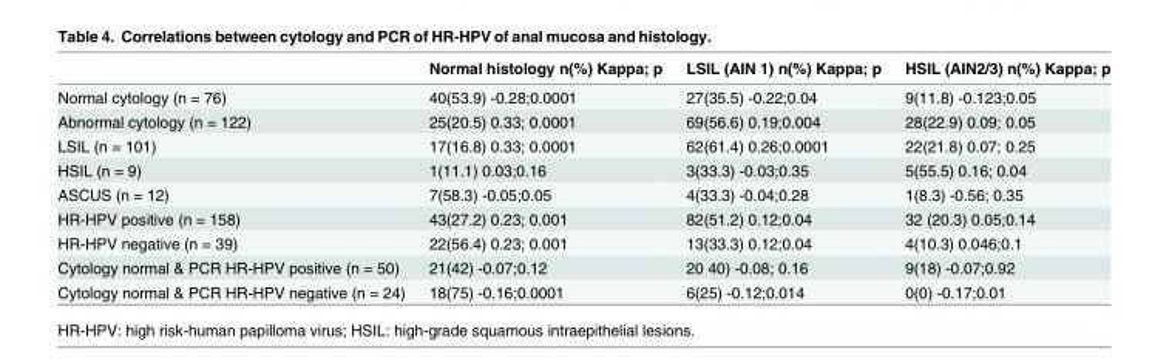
<table><thead><tr><td></td><td>Normal histology n(%) Kappa; p</td><td>LSIL (AIN 1) n(%) Kappa; p</td><td>HSIL (AIN2/3) n(%) Kappa; p</td></tr></thead><tbody><tr><td>Normal cytology (n = 76)</td><td>40(53.9) -0.28;0.0001</td><td>27(35.5) -0.22;0.04</td><td>9(11.8) -0.123;0.05</td></tr><tr><td>Abnormal cytology (n = 122)</td><td>25(20.5) 0.33; 0.0001</td><td>69(56.6) 0.19;0.004</td><td>28(22.9) 0.09; 0.05</td></tr><tr><td>LSIL (n = 101)</td><td>17(16.8) 0.33; 0.0001</td><td>62(61.4) 0.26;0.0001</td><td>22(21.8) 0.07; 0.25</td></tr><tr><td>HSIL (n = 9)</td><td>1(11.1) 0.03;0.16</td><td>3(33.3) -0.03;0.35</td><td>5(55.5) 0.16; 0.04</td></tr><tr><td>ASCUS (n = 12)</td><td>7(58.3) -0.05;0.05</td><td>4(33.3) -0.04;0.28</td><td>1(8.3) -0.56; 0.35</td></tr><tr><td>HR-HPV positive (n = 158)</td><td>43(27.2) 0.23; 0.001</td><td>82(51.2) 0.12;0.04</td><td>32 (20.3) 0.05;0.14</td></tr><tr><td>HR-HPV negative (n = 39)</td><td>22(56.4) 0.23; 0.001</td><td>13(33.3) 0.12;0.04</td><td>4(10.3) 0.046;0.1</td></tr><tr><td>Cytology normal &amp; PCR HR-HPV positive (n = 50)</td><td>21(42) -0.07;0.12</td><td>20 40) -0.08; 0.16</td><td>9(18) -0.07;0.92</td></tr><tr><td>Cytology normal &amp; PCR HR-HPV negative (n = 24)</td><td>18(75) -0.16;0.0001</td><td>6(25) -0.12;0.014</td><td>0(0) -0.17;0.01</td></tr></tbody></table>